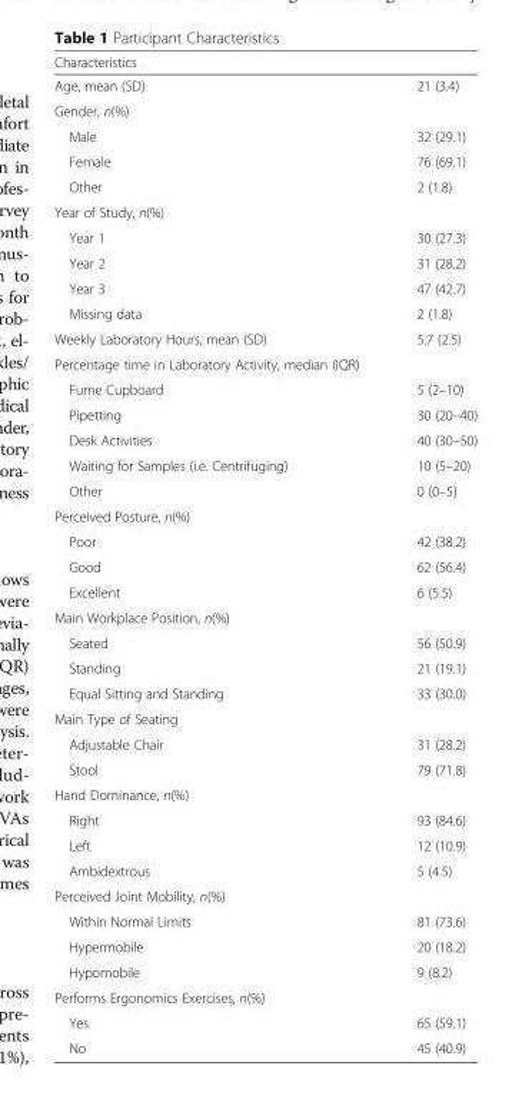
<table><thead><tr><td colspan="2">Characteristics</td></tr><tr><td>Age, mean (SD)</td><td>21 (3.4)</td></tr></thead><tbody><tr><td colspan="2">Gender, n(%)</td></tr><tr><td>Male</td><td>32 (29.1)</td></tr><tr><td>Female</td><td>76 (69.1)</td></tr><tr><td>Other</td><td>2 (1.8)</td></tr><tr><td colspan="2">Year of Study, n(%)</td></tr><tr><td>Year 1</td><td>30 (27.3)</td></tr><tr><td>Year 2</td><td>31 (28.2)</td></tr><tr><td>Year 3</td><td>47 (42.7)</td></tr><tr><td>Missing data</td><td>2 (1.8)</td></tr><tr><td>Weekly Laboratory Hours, mean (SD)</td><td>5.7 (2.5)</td></tr><tr><td colspan="2">Percentage time in Laboratory Activity, median (IQR)</td></tr><tr><td>Fume Cupboard</td><td>5 (2–10)</td></tr><tr><td>Pipetting</td><td>30 (20–40)</td></tr><tr><td>Desk Activities</td><td>40 (30–50)</td></tr><tr><td>Waiting for Samples (i.e. Centrifuging)</td><td>10 (5–20)</td></tr><tr><td>Other</td><td>0 (0–5)</td></tr><tr><td colspan="2">Perceived Posture, n(%)</td></tr><tr><td>Poor</td><td>42 (38.2)</td></tr><tr><td>Good</td><td>62 (56.4)</td></tr><tr><td>Excellent</td><td>6 (5.5)</td></tr><tr><td colspan="2">Main Workplace Position, n(%)</td></tr><tr><td>Seated</td><td>56 (50.9)</td></tr><tr><td>Standing</td><td>21 (19.1)</td></tr><tr><td>Equal Sitting and Standing</td><td>33 (30.0)</td></tr><tr><td colspan="2">Main Type of Seating</td></tr><tr><td>Adjustable Chair</td><td>31 (28.2)</td></tr><tr><td>Stool</td><td>79 (71.8)</td></tr><tr><td colspan="2">Hand Dominance, n(%)</td></tr><tr><td>Right</td><td>93 (84.6)</td></tr><tr><td>Left</td><td>12 (10.9)</td></tr><tr><td>Ambidextrous</td><td>5 (4.5)</td></tr><tr><td colspan="2">Perceived Joint Mobility, n(%)</td></tr><tr><td>Within Normal Limits</td><td>81 (73.6)</td></tr><tr><td>Hypermobile</td><td>20 (18.2)</td></tr><tr><td>Hypomobile</td><td>9 (8.2)</td></tr><tr><td colspan="2">Performs Ergonomics Exercises, n(%)</td></tr><tr><td>Yes</td><td>65 (59.1)</td></tr><tr><td>No</td><td>45 (40.9)</td></tr></tbody></table>